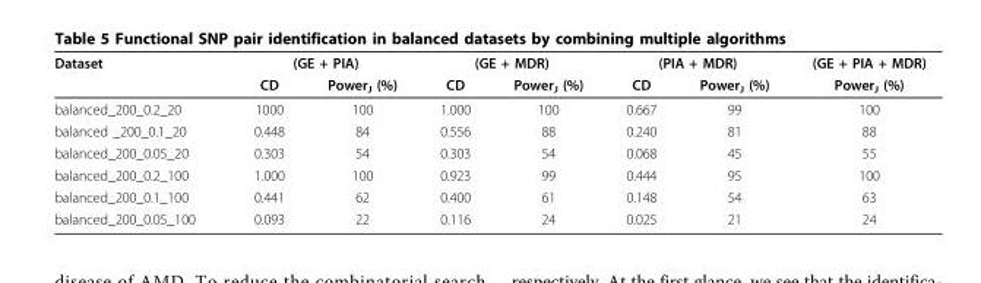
<table><thead><tr><td rowspan="2">Dataset</td><td colspan="2">(GE + PIA)</td><td colspan="2">(GE + MDR)</td><td colspan="2">(PIA + MDR)</td><td rowspan="2">(GE + PIA + MDR) Power<sub>J</sub> (%)</td></tr><tr><td>CD</td><td>Power<sub>J</sub> (%)</td><td>CD</td><td>Power<sub>J</sub> (%)</td><td>CD</td><td>Power<sub>J</sub> (%)</td></tr></thead><tbody><tr><td>balanced_200_0.2_20</td><td>1000</td><td>100</td><td>1.000</td><td>100</td><td>0.667</td><td>99</td><td>100</td></tr><tr><td>balanced _200_0.1_20</td><td>0.448</td><td>84</td><td>0.556</td><td>88</td><td>0.240</td><td>81</td><td>88</td></tr><tr><td>balanced_200_0.05_20</td><td>0.303</td><td>54</td><td>0.303</td><td>54</td><td>0.068</td><td>45</td><td>55</td></tr><tr><td>balanced_200_0.2_100</td><td>1.000</td><td>100</td><td>0.923</td><td>99</td><td>0.444</td><td>95</td><td>100</td></tr><tr><td>balanced_200_0.1_100</td><td>0.441</td><td>62</td><td>0.400</td><td>61</td><td>0.148</td><td>54</td><td>63</td></tr><tr><td>balanced_200_0.05_100</td><td>0.093</td><td>22</td><td>0.116</td><td>24</td><td>0.025</td><td>21</td><td>24</td></tr></tbody></table>